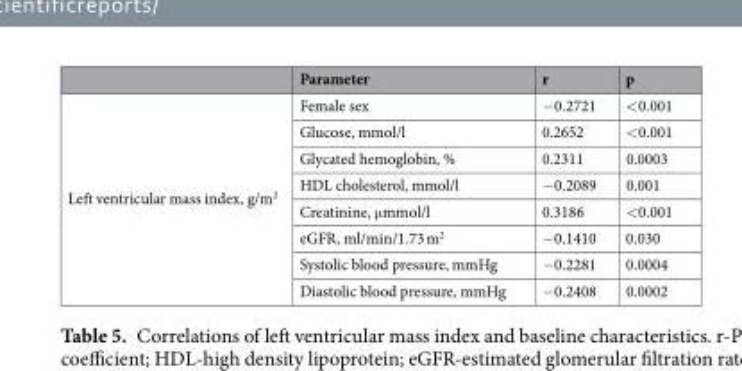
<table><thead><tr><td></td><td>Parameter</td><td>r</td><td>p</td></tr></thead><tbody><tr><td rowspan="8">Left ventricular mass index, g/m<sup>2</sup></td><td>Female sex</td><td>−0.2721</td><td>&lt;0.001</td></tr><tr><td>Glucose, mmol/l</td><td>0.2652</td><td>&lt;0.001</td></tr><tr><td>Glycated hemoglobin, %</td><td>0.2311</td><td>0.0003</td></tr><tr><td>HDL cholesterol, mmol/l</td><td>−0.2089</td><td>0.001</td></tr><tr><td>Creatinine, μmmol/l</td><td>0.3186</td><td>&lt;0.001</td></tr><tr><td>eGFR, ml/min/1.73 m<sup>2</sup></td><td>−0.1410</td><td>0.030</td></tr><tr><td>Systolic blood pressure, mmHg</td><td>−0.2281</td><td>0.0004</td></tr><tr><td>Diastolic blood pressure, mmHg</td><td>−0.2408</td><td>0.0002</td></tr></tbody></table>